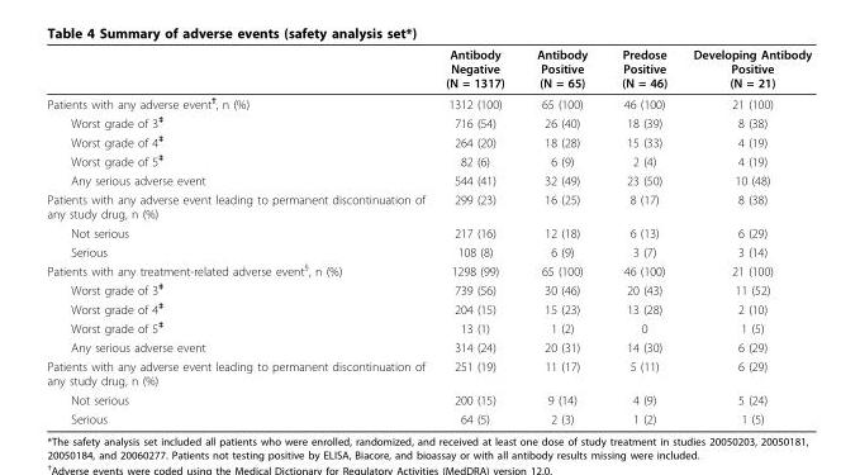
<table><thead><tr><td></td><td>Antibody Negative (N = 1317)</td><td>Antibody Positive (N = 65)</td><td>Predose Positive (N = 46)</td><td>Developing Antibody Positive (N = 21)</td></tr></thead><tbody><tr><td>Patients with any adverse event<sup>†</sup>, n (%)</td><td>1312 (100)</td><td>65 (100)</td><td>46 (100)</td><td>21 (100)</td></tr><tr><td>Worst grade of 3<sup>‡</sup></td><td>716 (54)</td><td>26 (40)</td><td>18 (39)</td><td>8 (38)</td></tr><tr><td>Worst grade of 4<sup>‡</sup></td><td>264 (20)</td><td>18 (28)</td><td>15 (33)</td><td>4 (19)</td></tr><tr><td>Worst grade of 5<sup>‡</sup></td><td>82 (6)</td><td>6 (9)</td><td>2 (4)</td><td>4 (19)</td></tr><tr><td>Any serious adverse event</td><td>544 (41)</td><td>32 (49)</td><td>23 (50)</td><td>10 (48)</td></tr><tr><td>Patients with any adverse event leading to permanent discontinuation of any study drug, n (%)</td><td>299 (23)</td><td>16 (25)</td><td>8 (17)</td><td>8 (38)</td></tr><tr><td>Not serious</td><td>217 (16)</td><td>12 (18)</td><td>6 (13)</td><td>6 (29)</td></tr><tr><td>Serious</td><td>108 (8)</td><td>6 (9)</td><td>3 (7)</td><td>3 (14)</td></tr><tr><td>Patients with any treatment-related adverse event<sup>§</sup>, n (%)</td><td>1298 (99)</td><td>65 (100)</td><td>46 (100)</td><td>21 (100)</td></tr><tr><td>Worst grade of 3<sup>‡</sup></td><td>739 (56)</td><td>30 (46)</td><td>20 (43)</td><td>11 (52)</td></tr><tr><td>Worst grade of 4<sup>‡</sup></td><td>204 (15)</td><td>15 (23)</td><td>13 (28)</td><td>2 (10)</td></tr><tr><td>Worst grade of 5<sup>‡</sup></td><td>13 (1)</td><td>1 (2)</td><td>0</td><td>1 (5)</td></tr><tr><td>Any serious adverse event</td><td>314 (24)</td><td>20 (31)</td><td>14 (30)</td><td>6 (29)</td></tr><tr><td>Patients with any adverse event leading to permanent discontinuation of any study drug, n (%)</td><td>251 (19)</td><td>11 (17)</td><td>5 (11)</td><td>6 (29)</td></tr><tr><td>Not serious</td><td>200 (15)</td><td>9 (14)</td><td>4 (9)</td><td>5 (24)</td></tr><tr><td>Serious</td><td>64 (5)</td><td>2 (3)</td><td>1 (2)</td><td>1 (5)</td></tr></tbody></table>